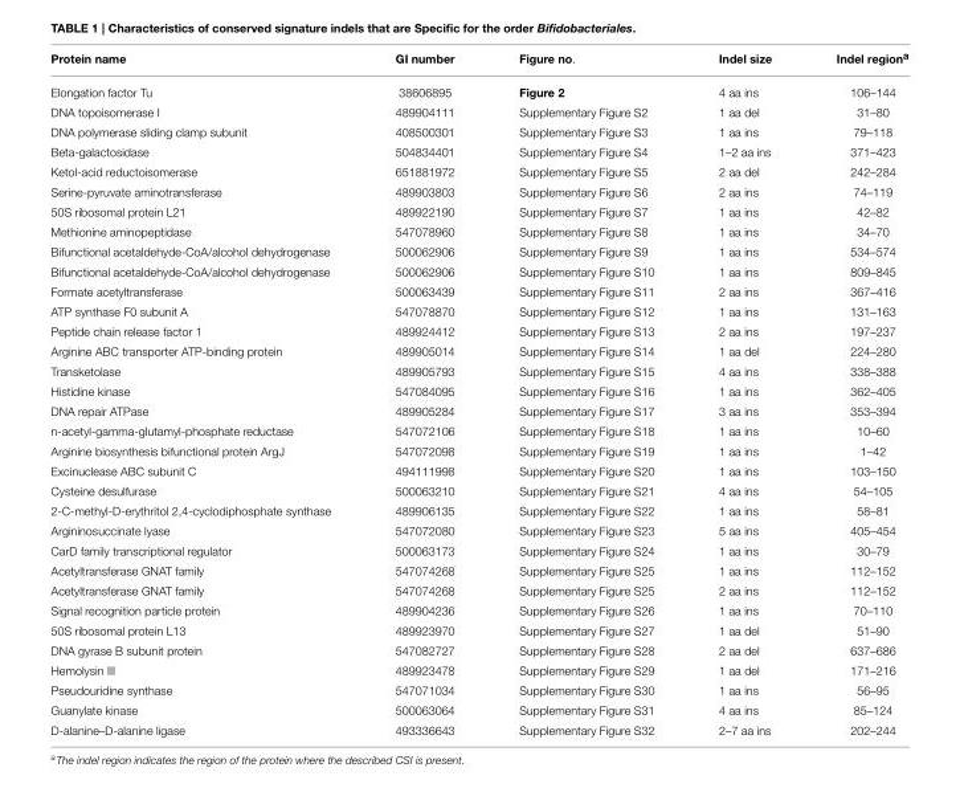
<table><thead><tr><td>Protein name</td><td>GI number</td><td>Figure no.</td><td>Indel size</td><td>Indel region<sup>a</sup></td></tr></thead><tbody><tr><td>Elongation factor Tu</td><td>38606895</td><td>Figure 2</td><td>4 aa ins</td><td>106–144</td></tr><tr><td>DNA topoisomerase I</td><td>489904111</td><td>Supplementary Figure S2</td><td>1 aa del</td><td>31–80</td></tr><tr><td>DNA polymerase sliding clamp subunit</td><td>408500301</td><td>Supplementary Figure S3</td><td>1 aa ins</td><td>79–118</td></tr><tr><td>Beta-galactosidase</td><td>504834401</td><td>Supplementary Figure S4</td><td>1–2 aa ins</td><td>371–423</td></tr><tr><td>Ketol-acid reductoisomerase</td><td>651881972</td><td>Supplementary Figure S5</td><td>2 aa del</td><td>242–284</td></tr><tr><td>Serine-pyruvate aminotransferase</td><td>489903803</td><td>Supplementary Figure S6</td><td>2 aa ins</td><td>74–119</td></tr><tr><td>50S ribosomal protein L21</td><td>489922190</td><td>Supplementary Figure S7</td><td>1 aa ins</td><td>42–82</td></tr><tr><td>Methionine aminopeptidase</td><td>547078960</td><td>Supplementary Figure S8</td><td>1 aa ins</td><td>34–70</td></tr><tr><td>Bifunctional acetaldehyde-CoA/alcohol dehydrogenase</td><td>500062906</td><td>Supplementary Figure S9</td><td>1 aa ins</td><td>534–574</td></tr><tr><td>Bifunctional acetaldehyde-CoA/alcohol dehydrogenase</td><td>500062906</td><td>Supplementary Figure S10</td><td>1 aa ins</td><td>809–845</td></tr><tr><td>Formate acetyltransferase</td><td>500063439</td><td>Supplementary Figure S11</td><td>2 aa ins</td><td>367–416</td></tr><tr><td>ATP synthase F0 subunit A</td><td>547078870</td><td>Supplementary Figure S12</td><td>1 aa ins</td><td>131–163</td></tr><tr><td>Peptide chain release factor 1</td><td>489924412</td><td>Supplementary Figure S13</td><td>2 aa ins</td><td>197–237</td></tr><tr><td>Arginine ABC transporter ATP-binding protein</td><td>489905014</td><td>Supplementary Figure S14</td><td>1 aa del</td><td>224–280</td></tr><tr><td>Transketolase</td><td>489905793</td><td>Supplementary Figure S15</td><td>4 aa ins</td><td>338–388</td></tr><tr><td>Histidine kinase</td><td>547084095</td><td>Supplementary Figure S16</td><td>1 aa ins</td><td>362–405</td></tr><tr><td>DNA repair ATPase</td><td>489905284</td><td>Supplementary Figure S17</td><td>3 aa ins</td><td>353–394</td></tr><tr><td>n-acetyl-gamma-glutamyl-phosphate reductase</td><td>547072106</td><td>Supplementary Figure S18</td><td>1 aa ins</td><td>10–60</td></tr><tr><td>Arginine biosynthesis bifunctional protein ArgJ</td><td>547072098</td><td>Supplementary Figure S19</td><td>1 aa ins</td><td>1–42</td></tr><tr><td>Excinuclease ABC subunit C</td><td>494111998</td><td>Supplementary Figure S20</td><td>1 aa ins</td><td>103–150</td></tr><tr><td>Cysteine desulfurase</td><td>500063210</td><td>Supplementary Figure S21</td><td>4 aa ins</td><td>54–105</td></tr><tr><td>2-C-methyl-D-erythritol 2,4-cyclodiphosphate synthase</td><td>489906135</td><td>Supplementary Figure S22</td><td>1 aa ins</td><td>58–81</td></tr><tr><td>Argininosuccinate lyase</td><td>547072080</td><td>Supplementary Figure S23</td><td>5 aa ins</td><td>405–454</td></tr><tr><td>CarD family transcriptional regulator</td><td>500063173</td><td>Supplementary Figure S24</td><td>1 aa ins</td><td>30–79</td></tr><tr><td>Acetyltransferase GNAT family</td><td>547074268</td><td>Supplementary Figure S25</td><td>1 aa ins</td><td>112–152</td></tr><tr><td>Acetyltransferase GNAT family</td><td>547074268</td><td>Supplementary Figure S25</td><td>2 aa ins</td><td>112–152</td></tr><tr><td>Signal recognition particle protein</td><td>489904236</td><td>Supplementary Figure S26</td><td>1 aa ins</td><td>70–110</td></tr><tr><td>50S ribosomal protein L13</td><td>489923970</td><td>Supplementary Figure S27</td><td>1 aa del</td><td>51–90</td></tr><tr><td>DNA gyrase B subunit protein</td><td>547082727</td><td>Supplementary Figure S28</td><td>2 aa del</td><td>637–686</td></tr><tr><td>Hemolysin III</td><td>489923478</td><td>Supplementary Figure S29</td><td>1 aa del</td><td>171–216</td></tr><tr><td>Pseudouridine synthase</td><td>547071034</td><td>Supplementary Figure S30</td><td>1 aa ins</td><td>56–95</td></tr><tr><td>Guanylate kinase</td><td>500063064</td><td>Supplementary Figure S31</td><td>4 aa ins</td><td>85–124</td></tr><tr><td>D-alanine–D-alanine ligase</td><td>493336643</td><td>Supplementary Figure S32</td><td>2–7 aa ins</td><td>202–244</td></tr></tbody></table>